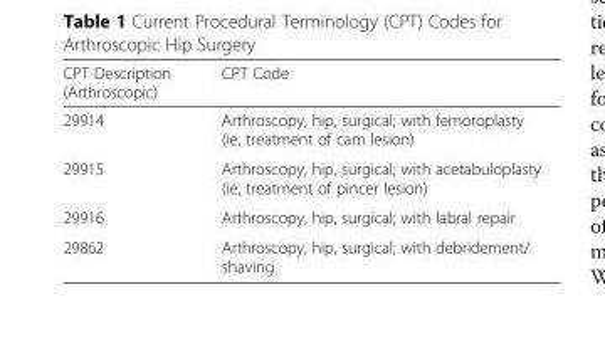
<table><thead><tr><td>CPT Description (Arthroscopic)</td><td>CPT Code</td></tr></thead><tbody><tr><td>29914</td><td>Arthroscopy, hip, surgical; with femoroplasty (ie, treatment of cam lesion)</td></tr><tr><td>29915</td><td>Arthroscopy, hip, surgical; with acetabuloplasty (ie, treatment of pincer lesion)</td></tr><tr><td>29916</td><td>Arthroscopy, hip, surgical; with labral repair</td></tr><tr><td>29862</td><td>Arthroscopy, hip, surgical; with debridement/ shaving</td></tr></tbody></table>